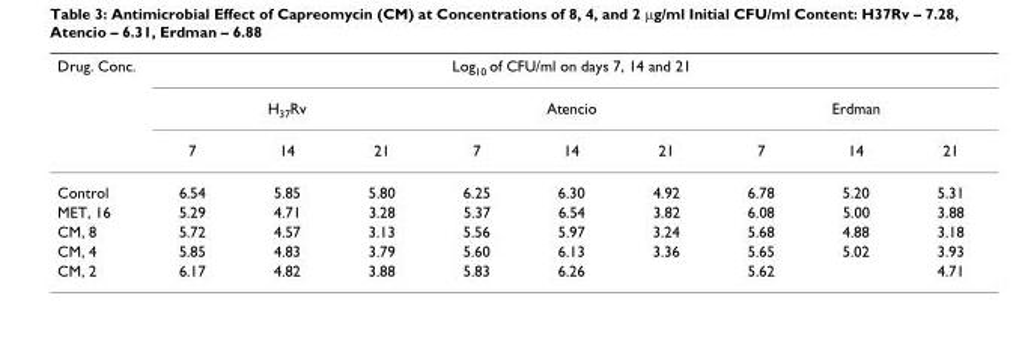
<table><thead><tr><td rowspan="3">Drug. Conc.</td><td colspan="9">Log<sub>10</sub> of CFU/ml on days 7, 14 and 21</td></tr><tr><td colspan="3">H<sub>37</sub>Rv</td><td colspan="3">Atencio</td><td colspan="3">Erdman</td></tr><tr><td>7</td><td>14</td><td>21</td><td>7</td><td>14</td><td>21</td><td>7</td><td>14</td><td>21</td></tr></thead><tbody><tr><td>Control</td><td>6.54</td><td>5.85</td><td>5.80</td><td>6.25</td><td>6.30</td><td>4.92</td><td>6.78</td><td>5.20</td><td>5.31</td></tr><tr><td>MET, 16</td><td>5.29</td><td>4.71</td><td>3.28</td><td>5.37</td><td>6.54</td><td>3.82</td><td>6.08</td><td>5.00</td><td>3.88</td></tr><tr><td>CM, 8</td><td>5.72</td><td>4.57</td><td>3.13</td><td>5.56</td><td>5.97</td><td>3.24</td><td>5.68</td><td>4.88</td><td>3.18</td></tr><tr><td>CM, 4</td><td>5.85</td><td>4.83</td><td>3.79</td><td>5.60</td><td>6.13</td><td>3.36</td><td>5.65</td><td>5.02</td><td>3.93</td></tr><tr><td>CM, 2</td><td>6.17</td><td>4.82</td><td>3.88</td><td>5.83</td><td>6.26</td><td></td><td>5.62</td><td></td><td>4.71</td></tr></tbody></table>